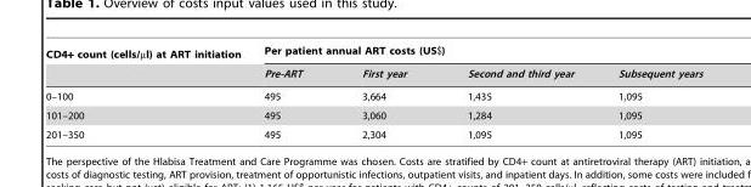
<table><thead><tr><td rowspan="2">CD4+ count (cells/µl) at ART initiation</td><td colspan="4">Per patient annual ART costs (US$)</td></tr><tr><td>Pre-ART</td><td>First year</td><td>Second and third year</td><td>Subsequent years</td></tr></thead><tbody><tr><td>0–100</td><td>495</td><td>3,664</td><td>1,435</td><td>1,095</td></tr><tr><td>101–200</td><td>495</td><td>3,060</td><td>1,284</td><td>1,095</td></tr><tr><td>201–350</td><td>495</td><td>2,304</td><td>1,095</td><td>1,095</td></tr></tbody></table>